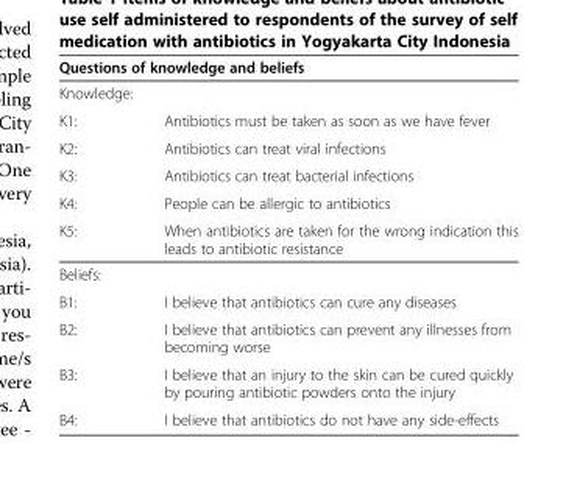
<table><thead><tr><td rowspan="2" colspan="2">Questions of knowledge and beliefs Knowledge:</td></tr><tr></tr><tr><td>K1:</td><td>Antibiotics must be taken as soon as we have fever</td></tr></thead><tbody><tr><td>K2:</td><td>Antibiotics can treat viral infections</td></tr><tr><td>K3:</td><td>Antibiotics can treat bacterial infections</td></tr><tr><td>K4:</td><td>People can be allergic to antibiotics</td></tr><tr><td>K5:</td><td>When antibiotics are taken for the wrong indication this leads to antibiotic resistance</td></tr><tr><td colspan="2">Beliefs:</td></tr><tr><td>B1:</td><td>I believe that antibiotics can cure any diseases</td></tr><tr><td>B2:</td><td>I believe that antibiotics can prevent any illnesses from becoming worse</td></tr><tr><td>B3:</td><td>I believe that an injury to the skin can be cured quickly by pouring antibiotic powders onto the injury</td></tr><tr><td>B4:</td><td>I believe that antibiotics do not have any side-effects</td></tr></tbody></table>